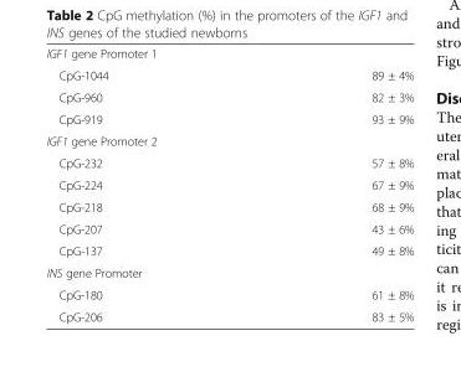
<table><tbody><tr><td colspan="2">IGF1 gene Promoter 1</td></tr><tr><td>CpG-1044</td><td>89 ± 4%</td></tr><tr><td>CpG-960</td><td>82 ± 3%</td></tr><tr><td>CpG-919</td><td>93 ± 9%</td></tr><tr><td colspan="2">IGF1 gene Promoter 2</td></tr><tr><td>CpG-232</td><td>57 ± 8%</td></tr><tr><td>CpG-224</td><td>67 ± 9%</td></tr><tr><td>CpG-218</td><td>68 ± 9%</td></tr><tr><td>CpG-207</td><td>43 ± 6%</td></tr><tr><td>CpG-137</td><td>49 ± 8%</td></tr><tr><td colspan="2">INS gene Promoter</td></tr><tr><td>CpG-180</td><td>61 ± 8%</td></tr><tr><td>CpG-206</td><td>83 ± 5%</td></tr></tbody></table>